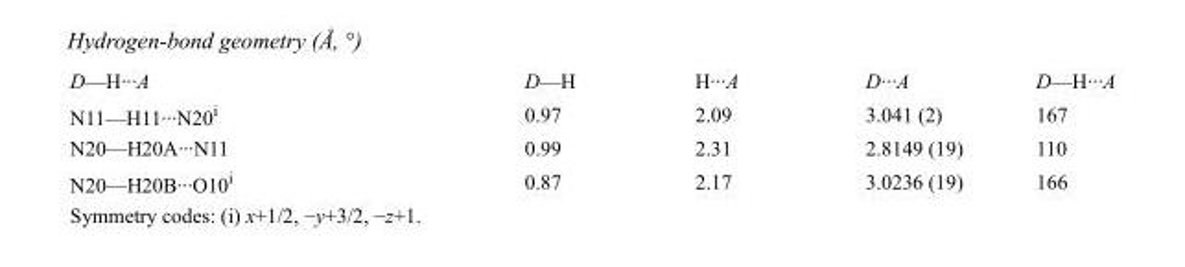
<table><tbody><tr><td>D—H···A</td><td>D—H</td><td>H···A</td><td>D···A</td><td>D—H···A</td></tr><tr><td>N11—H11···N20<sup>i</sup></td><td>0.97</td><td>2.09</td><td>3.041 (2)</td><td>167</td></tr><tr><td>N20—H20A···N11</td><td>0.99</td><td>2.31</td><td>2.8149 (19)</td><td>110</td></tr><tr><td>N20—H20B···O10<sup>i</sup></td><td>0.87</td><td>2.17</td><td>3.0236 (19)</td><td>166</td></tr></tbody></table>